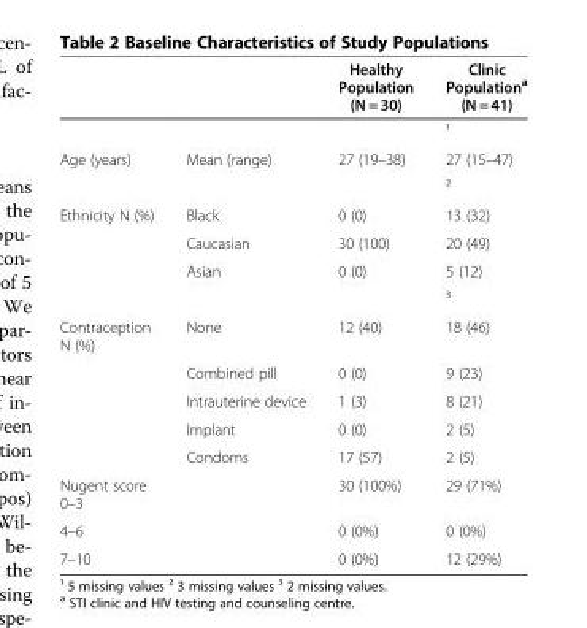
<table><thead><tr><td></td><td></td><td>Healthy Population (N = 30)</td><td>Clinic Population<sup>a</sup> (N = 41)</td></tr></thead><tbody><tr><td></td><td></td><td></td><td>¹</td></tr><tr><td rowspan="2">Age (years)</td><td>Mean (range)</td><td>27 (19–38)</td><td>27 (15–47)</td></tr><tr><td></td><td></td><td>²</td></tr><tr><td rowspan="4">Ethnicity N (%)</td><td>Black</td><td>0 (0)</td><td>13 (32)</td></tr><tr><td>Caucasian</td><td>30 (100)</td><td>20 (49)</td></tr><tr><td>Asian</td><td>0 (0)</td><td>5 (12)</td></tr><tr><td></td><td></td><td>³</td></tr><tr><td rowspan="5">Contraception N (%)</td><td>None</td><td>12 (40)</td><td>18 (46)</td></tr><tr><td>Combined pill</td><td>0 (0)</td><td>9 (23)</td></tr><tr><td>Intrauterine device</td><td>1 (3)</td><td>8 (21)</td></tr><tr><td>Implant</td><td>0 (0)</td><td>2 (5)</td></tr><tr><td>Condoms</td><td>17 (57)</td><td>2 (5)</td></tr><tr><td>Nugent score 0–3</td><td></td><td>30 (100%)</td><td>29 (71%)</td></tr><tr><td>4–6</td><td></td><td>0 (0%)</td><td>0 (0%)</td></tr><tr><td>7–10</td><td></td><td>0 (0%)</td><td>12 (29%)</td></tr></tbody></table>